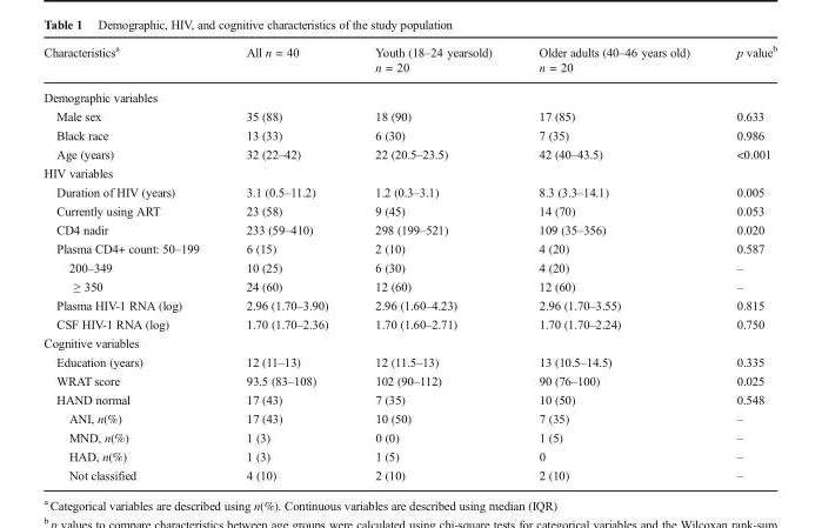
<table><thead><tr><td>Characteristics<sup>a</sup></td><td>All n = 40</td><td>Youth (18–24 yearsold) n = 20</td><td>Older adults (40–46 years old) n = 20</td><td>p value<sup>b</sup></td></tr></thead><tbody><tr><td colspan="5">Demographic variables</td></tr><tr><td>Male sex</td><td>35 (88)</td><td>18 (90)</td><td>17 (85)</td><td>0.633</td></tr><tr><td>Black race</td><td>13 (33)</td><td>6 (30)</td><td>7 (35)</td><td>0.986</td></tr><tr><td>Age (years)</td><td>32 (22–42)</td><td>22 (20.5–23.5)</td><td>42 (40–43.5)</td><td>&lt;0.001</td></tr><tr><td colspan="5">HIV variables</td></tr><tr><td>Duration of HIV (years)</td><td>3.1 (0.5–11.2)</td><td>1.2 (0.3–3.1)</td><td>8.3 (3.3–14.1)</td><td>0.005</td></tr><tr><td>Currently using ART</td><td>23 (58)</td><td>9 (45)</td><td>14 (70)</td><td>0.053</td></tr><tr><td>CD4 nadir</td><td>233 (59–410)</td><td>298 (199–521)</td><td>109 (35–356)</td><td>0.020</td></tr><tr><td>Plasma CD4+ count: 50–199</td><td>6 (15)</td><td>2 (10)</td><td>4 (20)</td><td>0.587</td></tr><tr><td>200–349</td><td>10 (25)</td><td>6 (30)</td><td>4 (20)</td><td>–</td></tr><tr><td>≥ 350</td><td>24 (60)</td><td>12 (60)</td><td>12 (60)</td><td>–</td></tr><tr><td>Plasma HIV-1 RNA (log)</td><td>2.96 (1.70–3.90)</td><td>2.96 (1.60–4.23)</td><td>2.96 (1.70–3.55)</td><td>0.815</td></tr><tr><td>CSF HIV-1 RNA (log)</td><td>1.70 (1.70–2.36)</td><td>1.70 (1.60–2.71)</td><td>1.70 (1.70–2.24)</td><td>0.750</td></tr><tr><td colspan="5">Cognitive variables</td></tr><tr><td>Education (years)</td><td>12 (11–13)</td><td>12 (11.5–13)</td><td>13 (10.5–14.5)</td><td>0.335</td></tr><tr><td>WRAT score</td><td>93.5 (83–108)</td><td>102 (90–112)</td><td>90 (76–100)</td><td>0.025</td></tr><tr><td>HAND normal</td><td>17 (43)</td><td>7 (35)</td><td>10 (50)</td><td>0.548</td></tr><tr><td>ANI, n(%)</td><td>17 (43)</td><td>10 (50)</td><td>7 (35)</td><td>–</td></tr><tr><td>MND, n(%)</td><td>1 (3)</td><td>0 (0)</td><td>1 (5)</td><td>–</td></tr><tr><td>HAD, n(%)</td><td>1 (3)</td><td>1 (5)</td><td>0</td><td>–</td></tr><tr><td>Not classified</td><td>4 (10)</td><td>2 (10)</td><td>2 (10)</td><td>–</td></tr></tbody></table>